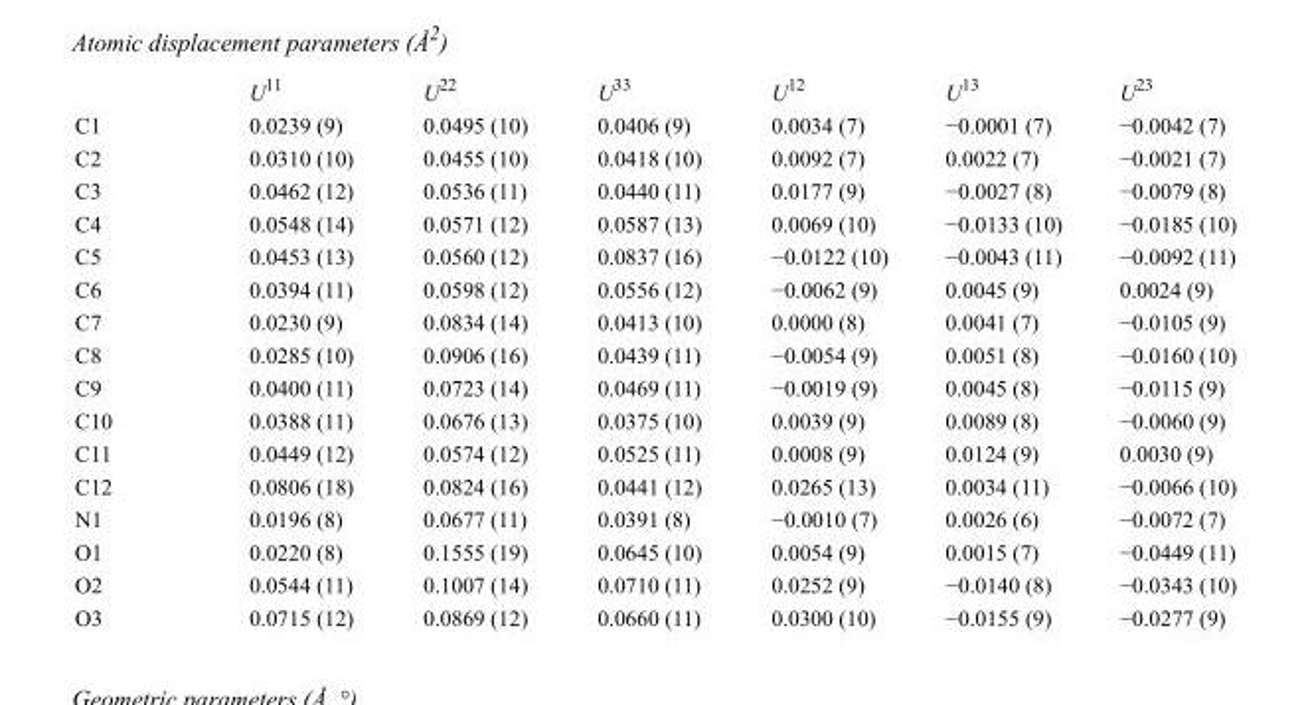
<table><thead><tr><td></td><td>U<sup>11</sup></td><td>U<sup>22</sup></td><td>U<sup>33</sup></td><td>U<sup>12</sup></td><td>U<sup>13</sup></td><td>U<sup>23</sup></td></tr></thead><tbody><tr><td>C1</td><td>0.0239 (9)</td><td>0.0495 (10)</td><td>0.0406 (9)</td><td>0.0034 (7)</td><td>−0.0001 (7)</td><td>−0.0042 (7)</td></tr><tr><td>C2</td><td>0.0310 (10)</td><td>0.0455 (10)</td><td>0.0418 (10)</td><td>0.0092 (7)</td><td>0.0022 (7)</td><td>−0.0021 (7)</td></tr><tr><td>C3</td><td>0.0462 (12)</td><td>0.0536 (11)</td><td>0.0440 (11)</td><td>0.0177 (9)</td><td>−0.0027 (8)</td><td>−0.0079 (8)</td></tr><tr><td>C4</td><td>0.0548 (14)</td><td>0.0571 (12)</td><td>0.0587 (13)</td><td>0.0069 (10)</td><td>−0.0133 (10)</td><td>−0.0185 (10)</td></tr><tr><td>C5</td><td>0.0453 (13)</td><td>0.0560 (12)</td><td>0.0837 (16)</td><td>−0.0122 (10)</td><td>−0.0043 (11)</td><td>−0.0092 (11)</td></tr><tr><td>C6</td><td>0.0394 (11)</td><td>0.0598 (12)</td><td>0.0556 (12)</td><td>−0.0062 (9)</td><td>0.0045 (9)</td><td>0.0024 (9)</td></tr><tr><td>C7</td><td>0.0230 (9)</td><td>0.0834 (14)</td><td>0.0413 (10)</td><td>0.0000 (8)</td><td>0.0041 (7)</td><td>−0.0105 (9)</td></tr><tr><td>C8</td><td>0.0285 (10)</td><td>0.0906 (16)</td><td>0.0439 (11)</td><td>−0.0054 (9)</td><td>0.0051 (8)</td><td>−0.0160 (10)</td></tr><tr><td>C9</td><td>0.0400 (11)</td><td>0.0723 (14)</td><td>0.0469 (11)</td><td>−0.0019 (9)</td><td>0.0045 (8)</td><td>−0.0115 (9)</td></tr><tr><td>C10</td><td>0.0388 (11)</td><td>0.0676 (13)</td><td>0.0375 (10)</td><td>0.0039 (9)</td><td>0.0089 (8)</td><td>−0.0060 (9)</td></tr><tr><td>C11</td><td>0.0449 (12)</td><td>0.0574 (12)</td><td>0.0525 (11)</td><td>0.0008 (9)</td><td>0.0124 (9)</td><td>0.0030 (9)</td></tr><tr><td>C12</td><td>0.0806 (18)</td><td>0.0824 (16)</td><td>0.0441 (12)</td><td>0.0265 (13)</td><td>0.0034 (11)</td><td>−0.0066 (10)</td></tr><tr><td>N1</td><td>0.0196 (8)</td><td>0.0677 (11)</td><td>0.0391 (8)</td><td>−0.0010 (7)</td><td>0.0026 (6)</td><td>−0.0072 (7)</td></tr><tr><td>O1</td><td>0.0220 (8)</td><td>0.1555 (19)</td><td>0.0645 (10)</td><td>0.0054 (9)</td><td>0.0015 (7)</td><td>−0.0449 (11)</td></tr><tr><td>O2</td><td>0.0544 (11)</td><td>0.1007 (14)</td><td>0.0710 (11)</td><td>0.0252 (9)</td><td>−0.0140 (8)</td><td>−0.0343 (10)</td></tr><tr><td>O3</td><td>0.0715 (12)</td><td>0.0869 (12)</td><td>0.0660 (11)</td><td>0.0300 (10)</td><td>−0.0155 (9)</td><td>−0.0277 (9)</td></tr></tbody></table>